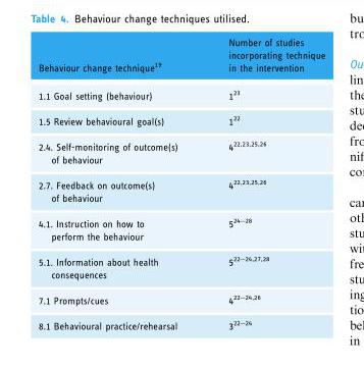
<table><thead><tr><td>Behaviour change technique<sup>19</sup></td><td>Number of studies incorporating technique in the intervention</td></tr></thead><tbody><tr><td>1.1 Goal setting (behaviour)</td><td>1<sup>23</sup></td></tr><tr><td>1.5 Review behavioural goal(s)</td><td>1<sup>22</sup></td></tr><tr><td>2.4. Self-monitoring of outcome(s) of behaviour</td><td>4<sup>22,23,25,26</sup></td></tr><tr><td>2.7. Feedback on outcome(s) of behaviour</td><td>4<sup>22,23,25,26</sup></td></tr><tr><td>4.1. Instruction on how to perform the behaviour</td><td>5<sup>24–28</sup></td></tr><tr><td>5.1. Information about health consequences</td><td>5<sup>22–24,27,28</sup></td></tr><tr><td>7.1 Prompts/cues</td><td>4<sup>22–24,26</sup></td></tr><tr><td>8.1 Behavioural practice/rehearsal</td><td>3<sup>22–24</sup></td></tr></tbody></table>